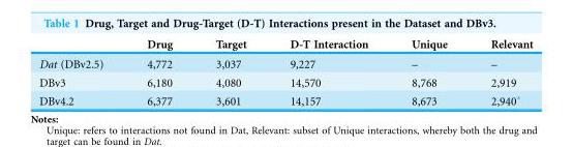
<table><thead><tr><td></td><td>Drug</td><td>Target</td><td>D-T Interaction</td><td>Unique</td><td>Relevant</td></tr></thead><tbody><tr><td>Dat (DBv2.5)</td><td>4,772</td><td>3,037</td><td>9,227</td><td>–</td><td>–</td></tr><tr><td>DBv3</td><td>6,180</td><td>4,080</td><td>14,570</td><td>8,768</td><td>2,919</td></tr><tr><td>DBv4.2</td><td>6,377</td><td>3,601</td><td>14,157</td><td>8,673</td><td>2,940*</td></tr></tbody></table>